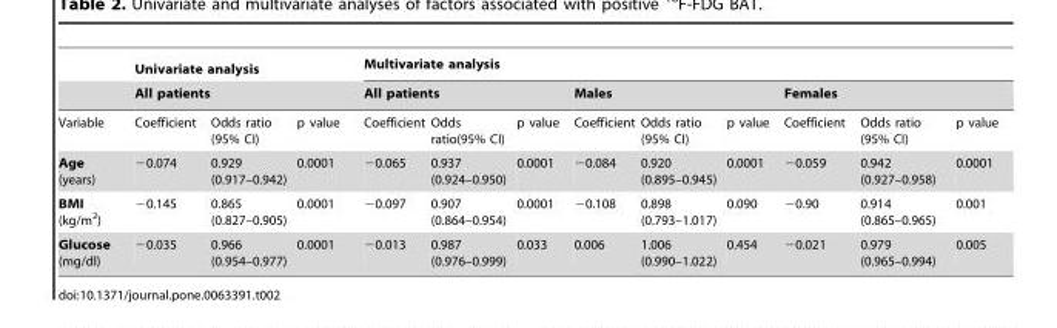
<table><thead><tr><td rowspan="3">Variable</td><td rowspan="2" colspan="3">Univariate analysis All patients</td><td colspan="9">Multivariate analysis</td></tr><tr><td colspan="3">All patients</td><td colspan="3">Males</td><td colspan="3">Females</td></tr><tr><td>Coefficient</td><td>Odds ratio (95% CI)</td><td>p value</td><td>Coefficient</td><td>Odds ratio(95% CI)</td><td>p value</td><td>Coefficient</td><td>Odds ratio (95% CI)</td><td>p value</td><td>Coefficient</td><td>Odds ratio (95% CI)</td><td>p value</td></tr></thead><tbody><tr><td>Age (years)</td><td>−0.074</td><td>0.929 (0.917–0.942)</td><td>0.0001</td><td>−0.065</td><td>0.937 (0.924–0.950)</td><td>0.0001</td><td>−0.084</td><td>0.920 (0.895–0.945)</td><td>0.0001</td><td>−0.059</td><td>0.942 (0.927–0.958)</td><td>0.0001</td></tr><tr><td>BMI (kg/m<sup>2</sup>)</td><td>−0.145</td><td>0.865 (0.827–0.905)</td><td>0.0001</td><td>−0.097</td><td>0.907 (0.864–0.954)</td><td>0.0001</td><td>−0.108</td><td>0.898 (0.793–1.017)</td><td>0.090</td><td>−0.90</td><td>0.914 (0.865–0.965)</td><td>0.001</td></tr><tr><td>Glucose (mg/dl)</td><td>−0.035</td><td>0.966 (0.954–0.977)</td><td>0.0001</td><td>−0.013</td><td>0.987 (0.976–0.999)</td><td>0.033</td><td>0.006</td><td>1.006 (0.990–1.022)</td><td>0.454</td><td>−0.021</td><td>0.979 (0.965–0.994)</td><td>0.005</td></tr></tbody></table>